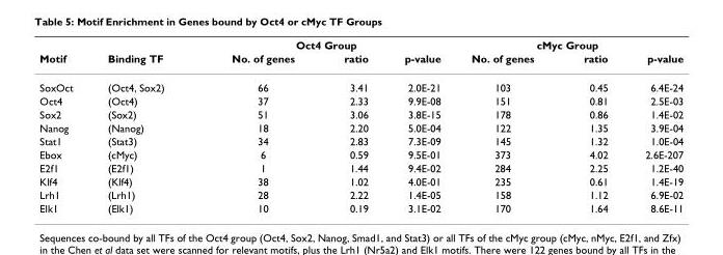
<table><thead><tr><td rowspan="2">Motif</td><td rowspan="2">Binding TF</td><td colspan="3">Oct4 Group</td><td colspan="3">cMyc Group</td></tr><tr><td>No. of genes</td><td>ratio</td><td>p-value</td><td>No. of genes</td><td>ratio</td><td>p-value</td></tr></thead><tbody><tr><td>SoxOct</td><td>(Oct4, Sox2)</td><td>66</td><td>3.41</td><td>2.0E-21</td><td>103</td><td>0.45</td><td>6.4E-24</td></tr><tr><td>Oct4</td><td>(Oct4)</td><td>37</td><td>2.33</td><td>9.9E-08</td><td>151</td><td>0.81</td><td>2.5E-03</td></tr><tr><td>Sox2</td><td>(Sox2)</td><td>51</td><td>3.06</td><td>3.8E-15</td><td>178</td><td>0.86</td><td>1.4E-02</td></tr><tr><td>Nanog</td><td>(Nanog)</td><td>18</td><td>2.20</td><td>5.0E-04</td><td>122</td><td>1.35</td><td>3.9E-04</td></tr><tr><td>Stat1</td><td>(Stat3)</td><td>34</td><td>2.83</td><td>7.3E-09</td><td>145</td><td>1.32</td><td>1.0E-04</td></tr><tr><td>Ebox</td><td>(cMyc)</td><td>6</td><td>0.59</td><td>9.5E-01</td><td>373</td><td>4.02</td><td>2.6E-207</td></tr><tr><td>E2f1</td><td>(E2f1)</td><td>1</td><td>1.44</td><td>9.4E-02</td><td>284</td><td>2.25</td><td>1.2E-40</td></tr><tr><td>Klf4</td><td>(Klf4)</td><td>38</td><td>1.02</td><td>4.0E-01</td><td>235</td><td>0.61</td><td>1.4E-19</td></tr><tr><td>Lrh1</td><td>(Lrh1)</td><td>28</td><td>2.22</td><td>1.4E-05</td><td>158</td><td>1.12</td><td>6.9E-02</td></tr><tr><td>Elk1</td><td>(Elk1)</td><td>10</td><td>0.19</td><td>3.1E-02</td><td>170</td><td>1.64</td><td>8.6E-11</td></tr></tbody></table>